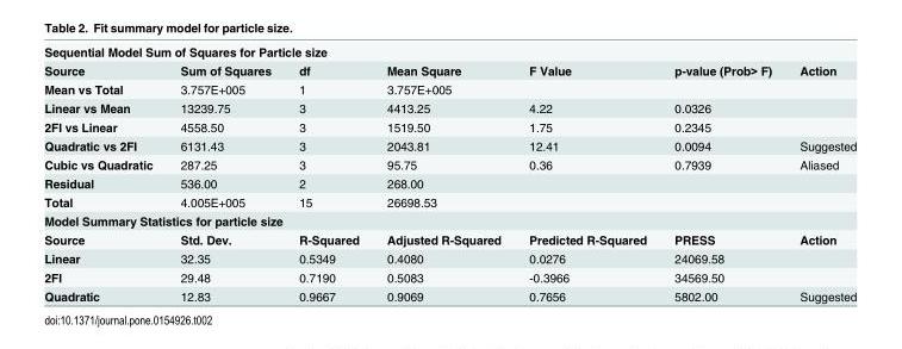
<table><tbody><tr><td colspan="7">Sequential Model Sum of Squares for Particle size</td></tr><tr><td>Source</td><td>Sum of Squares</td><td>df</td><td>Mean Square</td><td>F Value</td><td>p-value (Prob&gt; F)</td><td>Action</td></tr><tr><td>Mean vs Total</td><td>3.757E+005</td><td>1</td><td>3.757E+005</td><td></td><td></td><td></td></tr><tr><td>Linear vs Mean</td><td>13239.75</td><td>3</td><td>4413.25</td><td>4.22</td><td>0.0326</td><td></td></tr><tr><td>2FI vs Linear</td><td>4558.50</td><td>3</td><td>1519.50</td><td>1.75</td><td>0.2345</td><td></td></tr><tr><td>Quadratic vs 2FI</td><td>6131.43</td><td>3</td><td>2043.81</td><td>12.41</td><td>0.0094</td><td>Suggested</td></tr><tr><td>Cubic vs Quadratic</td><td>287.25</td><td>3</td><td>95.75</td><td>0.36</td><td>0.7939</td><td>Aliased</td></tr><tr><td>Residual</td><td>536.00</td><td>2</td><td>268.00</td><td></td><td></td><td></td></tr><tr><td>Total</td><td>4.005E+005</td><td>15</td><td>26698.53</td><td></td><td></td><td></td></tr><tr><td colspan="7">Model Summary Statistics for particle size</td></tr><tr><td>Source</td><td>Std. Dev.</td><td>R-Squared</td><td>Adjusted R-Squared</td><td>Predicted R-Squared</td><td>PRESS</td><td>Action</td></tr><tr><td>Linear</td><td>32.35</td><td>0.5349</td><td>0.4080</td><td>0.0276</td><td>24069.58</td><td></td></tr><tr><td>2FI</td><td>29.48</td><td>0.7190</td><td>0.5083</td><td>-0.3966</td><td>34569.50</td><td></td></tr><tr><td>Quadratic</td><td>12.83</td><td>0.9667</td><td>0.9069</td><td>0.7656</td><td>5802.00</td><td>Suggested</td></tr></tbody></table>